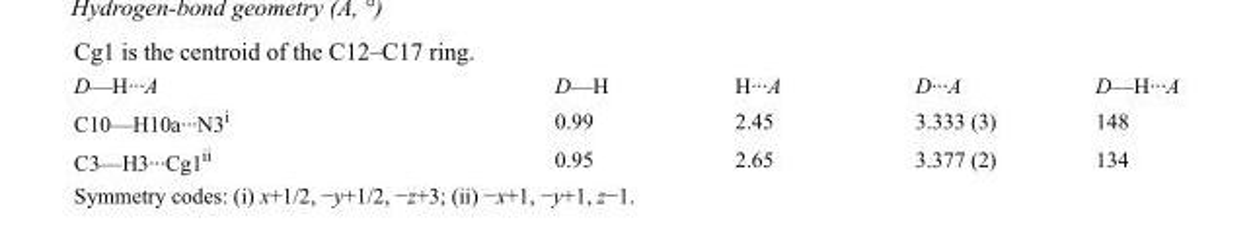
<table><tbody><tr><td>D—H···A</td><td>D—H</td><td>H···A</td><td>D···A</td><td>D—H···A</td></tr><tr><td>C10—H10a···N3<sup>i</sup></td><td>0.99</td><td>2.45</td><td>3.333 (3)</td><td>148</td></tr><tr><td>C3—H3···Cg1<sup>ii</sup></td><td>0.95</td><td>2.65</td><td>3.377 (2)</td><td>134</td></tr></tbody></table>